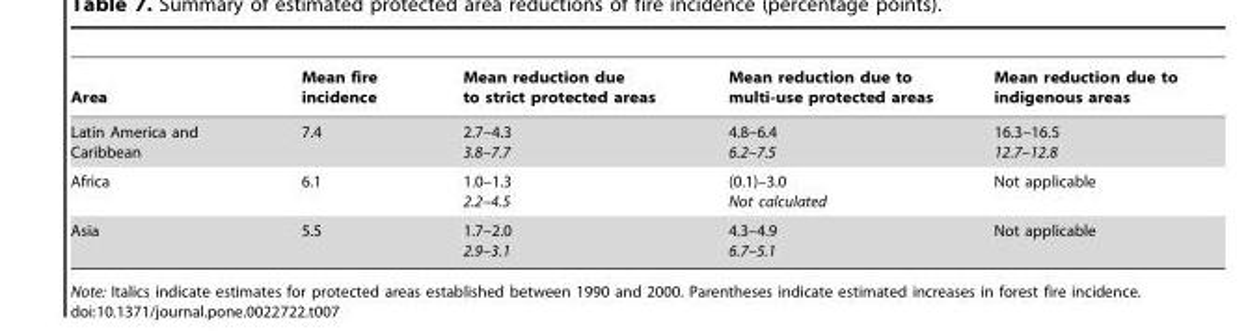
<table><thead><tr><td>Area</td><td>Mean fire incidence</td><td>Mean reduction due to strict protected areas</td><td>Mean reduction due to multi-use protected areas</td><td>Mean reduction due to indigenous areas</td></tr></thead><tbody><tr><td>Latin America and Caribbean</td><td>7.4</td><td>2.7–4.3 3.8–7.7</td><td>4.8–6.4 6.2–7.5</td><td>16.3–16.5 12.7–12.8</td></tr><tr><td>Africa</td><td>6.1</td><td>1.0–1.3 2.2–4.5</td><td>(0.1)–3.0 Not calculated</td><td>Not applicable</td></tr><tr><td>Asia</td><td>5.5</td><td>1.7–2.0 2.9–3.1</td><td>4.3–4.9 6.7–5.1</td><td>Not applicable</td></tr></tbody></table>